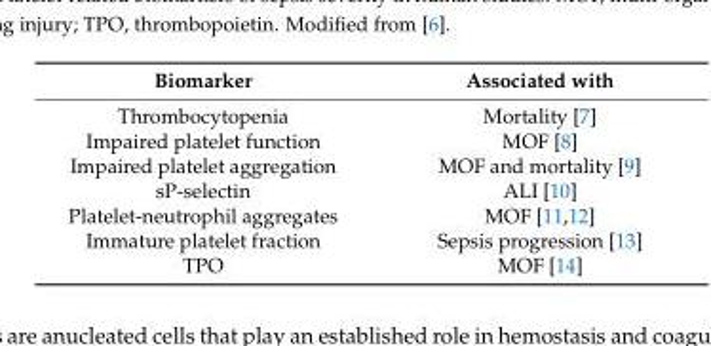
<table><thead><tr><td>Biomarker</td><td>Associated with</td></tr></thead><tbody><tr><td>Thrombocytopenia</td><td>Mortality [7]</td></tr><tr><td>Impaired platelet function</td><td>MOF [8]</td></tr><tr><td>Impaired platelet aggregation</td><td>MOF and mortality [9]</td></tr><tr><td>sP-selectin</td><td>ALI [10]</td></tr><tr><td>Platelet-neutrophil aggregates</td><td>MOF [11,12]</td></tr><tr><td>Immature platelet fraction</td><td>Sepsis progression [13]</td></tr><tr><td>TPO</td><td>MOF [14]</td></tr></tbody></table>